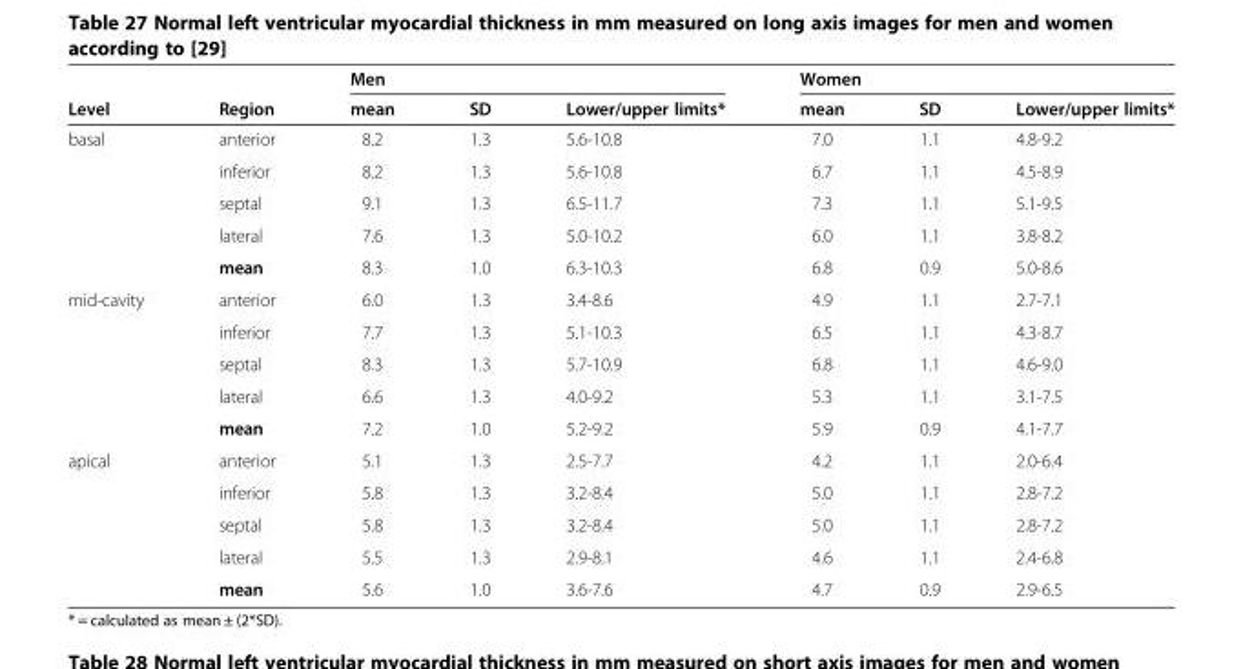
<table><thead><tr><td rowspan="2">Level</td><td rowspan="2">Region</td><td colspan="3">Men</td><td colspan="3">Women</td></tr><tr><td>mean</td><td>SD</td><td>Lower/upper limits*</td><td>mean</td><td>SD</td><td>Lower/upper limits*</td></tr></thead><tbody><tr><td rowspan="5">basal</td><td>anterior</td><td>8.2</td><td>1.3</td><td>5.6-10.8</td><td>7.0</td><td>1.1</td><td>4.8-9.2</td></tr><tr><td>inferior</td><td>8.2</td><td>1.3</td><td>5.6-10.8</td><td>6.7</td><td>1.1</td><td>4.5-8.9</td></tr><tr><td>septal</td><td>9.1</td><td>1.3</td><td>6.5-11.7</td><td>7.3</td><td>1.1</td><td>5.1-9.5</td></tr><tr><td>lateral</td><td>7.6</td><td>1.3</td><td>5.0-10.2</td><td>6.0</td><td>1.1</td><td>3.8-8.2</td></tr><tr><td>mean</td><td>8.3</td><td>1.0</td><td>6.3-10.3</td><td>6.8</td><td>0.9</td><td>5.0-8.6</td></tr><tr><td rowspan="5">mid-cavity</td><td>anterior</td><td>6.0</td><td>1.3</td><td>3.4-8.6</td><td>4.9</td><td>1.1</td><td>2.7-7.1</td></tr><tr><td>inferior</td><td>7.7</td><td>1.3</td><td>5.1-10.3</td><td>6.5</td><td>1.1</td><td>4.3-8.7</td></tr><tr><td>septal</td><td>8.3</td><td>1.3</td><td>5.7-10.9</td><td>6.8</td><td>1.1</td><td>4.6-9.0</td></tr><tr><td>lateral</td><td>6.6</td><td>1.3</td><td>4.0-9.2</td><td>5.3</td><td>1.1</td><td>3.1-7.5</td></tr><tr><td>mean</td><td>7.2</td><td>1.0</td><td>5.2-9.2</td><td>5.9</td><td>0.9</td><td>4.1-7.7</td></tr><tr><td rowspan="5">apical</td><td>anterior</td><td>5.1</td><td>1.3</td><td>2.5-7.7</td><td>4.2</td><td>1.1</td><td>2.0-6.4</td></tr><tr><td>inferior</td><td>5.8</td><td>1.3</td><td>3.2-8.4</td><td>5.0</td><td>1.1</td><td>2.8-7.2</td></tr><tr><td>septal</td><td>5.8</td><td>1.3</td><td>3.2-8.4</td><td>5.0</td><td>1.1</td><td>2.8-7.2</td></tr><tr><td>lateral</td><td>5.5</td><td>1.3</td><td>2.9-8.1</td><td>4.6</td><td>1.1</td><td>2.4-6.8</td></tr><tr><td>mean</td><td>5.6</td><td>1.0</td><td>3.6-7.6</td><td>4.7</td><td>0.9</td><td>2.9-6.5</td></tr></tbody></table>